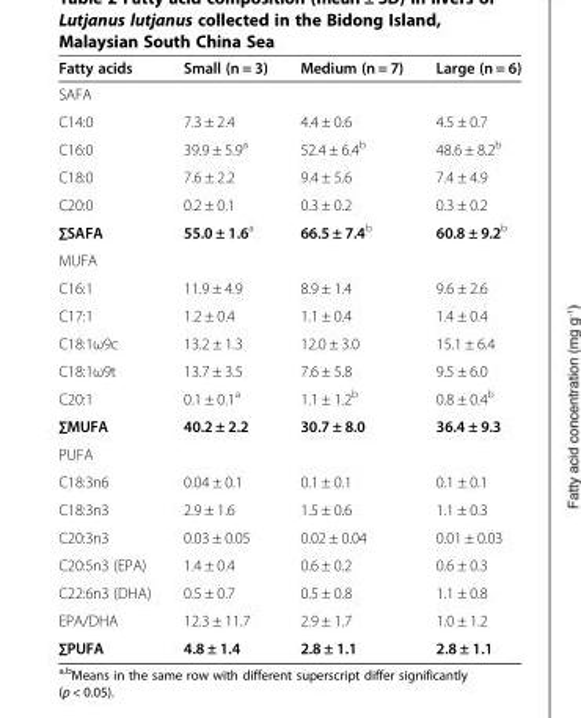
<table><thead><tr><td>Fatty acids</td><td>Small (n = 3)</td><td>Medium (n = 7)</td><td>Large (n = 6)</td></tr></thead><tbody><tr><td colspan="4">SAFA</td></tr><tr><td>C14:0</td><td>7.3 ± 2.4</td><td>4.4 ± 0.6</td><td>4.5 ± 0.7</td></tr><tr><td>C16:0</td><td>39.9 ± 5.9<sup>a</sup></td><td>52.4 ± 6.4<sup>b</sup></td><td>48.6 ± 8.2<sup>b</sup></td></tr><tr><td>C18:0</td><td>7.6 ± 2.2</td><td>9.4 ± 5.6</td><td>7.4 ± 4.9</td></tr><tr><td>C20:0</td><td>0.2 ± 0.1</td><td>0.3 ± 0.2</td><td>0.3 ± 0.2</td></tr><tr><td>∑SAFA</td><td>55.0 ± 1.6<sup>a</sup></td><td>66.5 ± 7.4<sup>b</sup></td><td>60.8 ± 9.2<sup>b</sup></td></tr><tr><td colspan="4">MUFA</td></tr><tr><td>C16:1</td><td>11.9 ± 4.9</td><td>8.9 ± 1.4</td><td>9.6 ± 2.6</td></tr><tr><td>C17:1</td><td>1.2 ± 0.4</td><td>1.1 ± 0.4</td><td>1.4 ± 0.4</td></tr><tr><td>C18:1ω9c</td><td>13.2 ± 1.3</td><td>12.0 ± 3.0</td><td>15.1 ± 6.4</td></tr><tr><td>C18:1ω9t</td><td>13.7 ± 3.5</td><td>7.6 ± 5.8</td><td>9.5 ± 6.0</td></tr><tr><td>C20:1</td><td>0.1 ± 0.1<sup>a</sup></td><td>1.1 ± 1.2<sup>b</sup></td><td>0.8 ± 0.4<sup>b</sup></td></tr><tr><td>∑MUFA</td><td>40.2 ± 2.2</td><td>30.7 ± 8.0</td><td>36.4 ± 9.3</td></tr><tr><td colspan="4">PUFA</td></tr><tr><td>C18:3n6</td><td>0.04 ± 0.1</td><td>0.1 ± 0.1</td><td>0.1 ± 0.1</td></tr><tr><td>C18:3n3</td><td>2.9 ± 1.6</td><td>1.5 ± 0.6</td><td>1.1 ± 0.3</td></tr><tr><td>C20:3n3</td><td>0.03 ± 0.05</td><td>0.02 ± 0.04</td><td>0.01 ± 0.03</td></tr><tr><td>C20:5n3 (EPA)</td><td>1.4 ± 0.4</td><td>0.6 ± 0.2</td><td>0.6 ± 0.3</td></tr><tr><td>C22:6n3 (DHA)</td><td>0.5 ± 0.7</td><td>0.5 ± 0.8</td><td>1.1 ± 0.8</td></tr><tr><td>EPA/DHA</td><td>12.3 ± 11.7</td><td>2.9 ± 1.7</td><td>1.0 ± 1.2</td></tr><tr><td>∑PUFA</td><td>4.8 ± 1.4</td><td>2.8 ± 1.1</td><td>2.8 ± 1.1</td></tr></tbody></table>